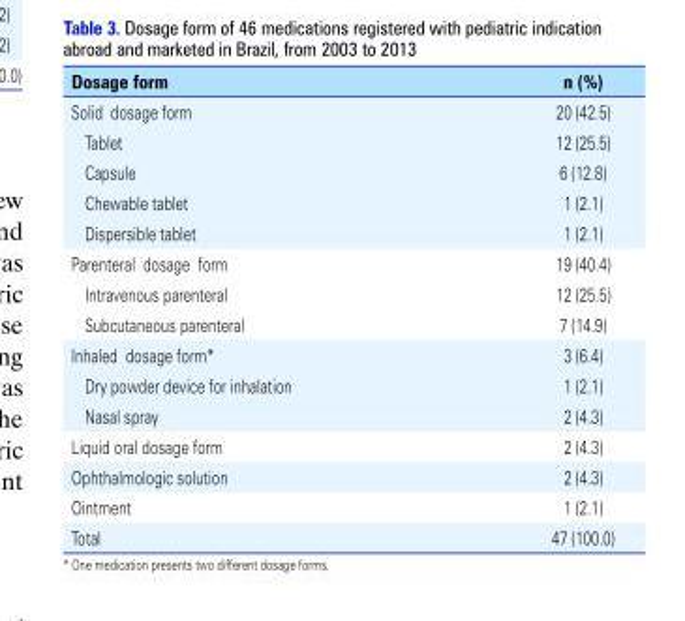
<table><thead><tr><td>Dosage form</td><td>n (%)</td></tr></thead><tbody><tr><td>Solid dosage form</td><td>20 (42.5)</td></tr><tr><td>Tablet</td><td>12 (25.5)</td></tr><tr><td>Capsule</td><td>6 (12.8)</td></tr><tr><td>Chewable tablet</td><td>1 (2.1)</td></tr><tr><td>Dispersible tablet</td><td>1 (2.1)</td></tr><tr><td>Parenteral dosage form</td><td>19 (40.4)</td></tr><tr><td>Intravenous parenteral</td><td>12 (25.5)</td></tr><tr><td>Subcutaneous parenteral</td><td>7 (14.9)</td></tr><tr><td>Inhaled dosage form*</td><td>3 (6.4)</td></tr><tr><td>Dry powder device for inhalation</td><td>1 (2.1)</td></tr><tr><td>Nasal spray</td><td>2 (4.3)</td></tr><tr><td>Liquid oral dosage form</td><td>2 (4.3)</td></tr><tr><td>Ophthalmologic solution</td><td>2 (4.3)</td></tr><tr><td>Ointment</td><td>1 (2.1)</td></tr><tr><td>Total</td><td>47 (100.0)</td></tr></tbody></table>